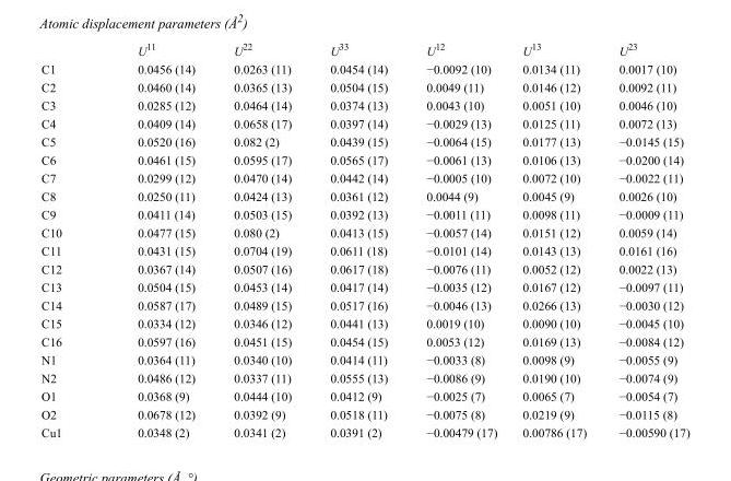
<table><thead><tr><td></td><td>U<sup>11</sup></td><td>U<sup>22</sup></td><td>U<sup>33</sup></td><td>U<sup>12</sup></td><td>U<sup>13</sup></td><td>U<sup>23</sup></td></tr></thead><tbody><tr><td>C1</td><td>0.0456 (14)</td><td>0.0263 (11)</td><td>0.0454 (14)</td><td>−0.0092 (10)</td><td>0.0134 (11)</td><td>0.0017 (10)</td></tr><tr><td>C2</td><td>0.0460 (14)</td><td>0.0365 (13)</td><td>0.0504 (15)</td><td>0.0049 (11)</td><td>0.0146 (12)</td><td>0.0092 (11)</td></tr><tr><td>C3</td><td>0.0285 (12)</td><td>0.0464 (14)</td><td>0.0374 (13)</td><td>0.0043 (10)</td><td>0.0051 (10)</td><td>0.0046 (10)</td></tr><tr><td>C4</td><td>0.0409 (14)</td><td>0.0658 (17)</td><td>0.0397 (14)</td><td>−0.0029 (13)</td><td>0.0125 (11)</td><td>0.0072 (13)</td></tr><tr><td>C5</td><td>0.0520 (16)</td><td>0.082 (2)</td><td>0.0439 (15)</td><td>−0.0064 (15)</td><td>0.0177 (13)</td><td>−0.0145 (15)</td></tr><tr><td>C6</td><td>0.0461 (15)</td><td>0.0595 (17)</td><td>0.0565 (17)</td><td>−0.0061 (13)</td><td>0.0106 (13)</td><td>−0.0200 (14)</td></tr><tr><td>C7</td><td>0.0299 (12)</td><td>0.0470 (14)</td><td>0.0442 (14)</td><td>−0.0005 (10)</td><td>0.0072 (10)</td><td>−0.0022 (11)</td></tr><tr><td>C8</td><td>0.0250 (11)</td><td>0.0424 (13)</td><td>0.0361 (12)</td><td>0.0044 (9)</td><td>0.0045 (9)</td><td>0.0026 (10)</td></tr><tr><td>C9</td><td>0.0411 (14)</td><td>0.0503 (15)</td><td>0.0392 (13)</td><td>−0.0011 (11)</td><td>0.0098 (11)</td><td>−0.0009 (11)</td></tr><tr><td>C10</td><td>0.0477 (15)</td><td>0.080 (2)</td><td>0.0413 (15)</td><td>−0.0057 (14)</td><td>0.0151 (12)</td><td>0.0059 (14)</td></tr><tr><td>C11</td><td>0.0431 (15)</td><td>0.0704 (19)</td><td>0.0611 (18)</td><td>−0.0101 (14)</td><td>0.0143 (13)</td><td>0.0161 (16)</td></tr><tr><td>C12</td><td>0.0367 (14)</td><td>0.0507 (16)</td><td>0.0617 (18)</td><td>−0.0076 (11)</td><td>0.0052 (12)</td><td>0.0022 (13)</td></tr><tr><td>C13</td><td>0.0504 (15)</td><td>0.0453 (14)</td><td>0.0417 (14)</td><td>−0.0035 (12)</td><td>0.0167 (12)</td><td>−0.0097 (11)</td></tr><tr><td>C14</td><td>0.0587 (17)</td><td>0.0489 (15)</td><td>0.0517 (16)</td><td>−0.0046 (13)</td><td>0.0266 (13)</td><td>−0.0030 (12)</td></tr><tr><td>C15</td><td>0.0334 (12)</td><td>0.0346 (12)</td><td>0.0441 (13)</td><td>0.0019 (10)</td><td>0.0090 (10)</td><td>−0.0045 (10)</td></tr><tr><td>C16</td><td>0.0597 (16)</td><td>0.0451 (15)</td><td>0.0454 (15)</td><td>0.0053 (12)</td><td>0.0169 (13)</td><td>−0.0084 (12)</td></tr><tr><td>N1</td><td>0.0364 (11)</td><td>0.0340 (10)</td><td>0.0414 (11)</td><td>−0.0033 (8)</td><td>0.0098 (9)</td><td>−0.0055 (9)</td></tr><tr><td>N2</td><td>0.0486 (12)</td><td>0.0337 (11)</td><td>0.0555 (13)</td><td>−0.0086 (9)</td><td>0.0190 (10)</td><td>−0.0074 (9)</td></tr><tr><td>O1</td><td>0.0368 (9)</td><td>0.0444 (10)</td><td>0.0412 (9)</td><td>−0.0025 (7)</td><td>0.0065 (7)</td><td>−0.0054 (7)</td></tr><tr><td>O2</td><td>0.0678 (12)</td><td>0.0392 (9)</td><td>0.0518 (11)</td><td>−0.0075 (8)</td><td>0.0219 (9)</td><td>−0.0115 (8)</td></tr><tr><td>Cu1</td><td>0.0348 (2)</td><td>0.0341 (2)</td><td>0.0391 (2)</td><td>−0.00479 (17)</td><td>0.00786 (17)</td><td>−0.00590 (17)</td></tr></tbody></table>